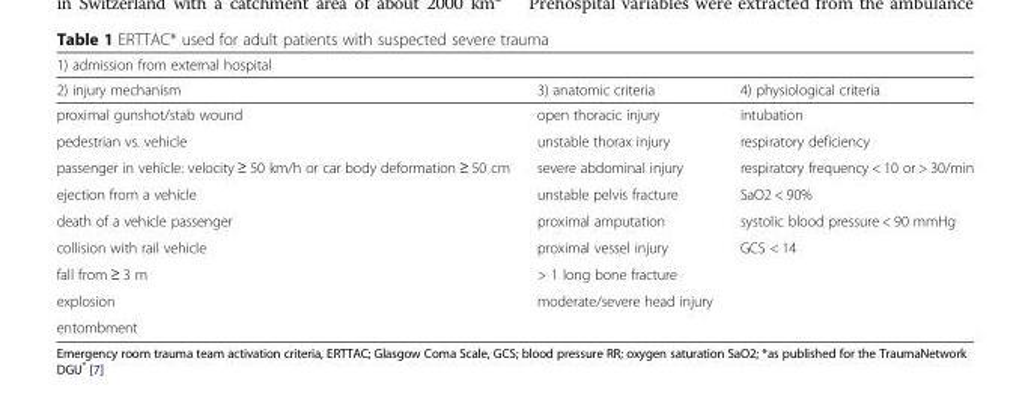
<table><thead><tr><td colspan="3">1) admission from external hospital</td></tr><tr><td>2) injury mechanism</td><td>3) anatomic criteria</td><td>4) physiological criteria</td></tr></thead><tbody><tr><td>proximal gunshot/stab wound</td><td>open thoracic injury</td><td>intubation</td></tr><tr><td>pedestrian vs. vehicle</td><td>unstable thorax injury</td><td>respiratory deficiency</td></tr><tr><td>passenger in vehicle: velocity ≥ 50 km/h or car body deformation ≥ 50 cm</td><td>severe abdominal injury</td><td>respiratory frequency &lt; 10 or &gt; 30/min</td></tr><tr><td>ejection from a vehicle</td><td>unstable pelvis fracture</td><td>SaO2 &lt; 90%</td></tr><tr><td>death of a vehicle passenger</td><td>proximal amputation</td><td>systolic blood pressure &lt; 90 mmHg</td></tr><tr><td>collision with rail vehicle</td><td>proximal vessel injury</td><td>GCS &lt; 14</td></tr><tr><td>fall from ≥ 3 m</td><td>&gt; 1 long bone fracture</td><td></td></tr><tr><td>explosion</td><td>moderate/severe head injury</td><td></td></tr><tr><td>entombment</td><td></td><td></td></tr></tbody></table>